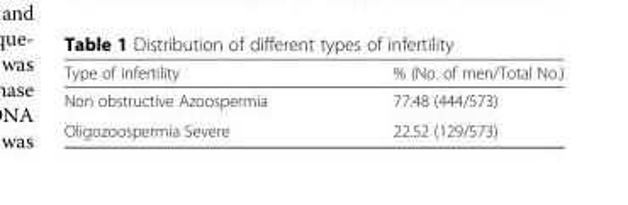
<table><thead><tr><td>Type of infertility</td><td>% (No. of men/Total No.)</td></tr></thead><tbody><tr><td>Non obstructive Azoospermia</td><td>77.48 (444/573)</td></tr><tr><td>Oligozoospermia Severe</td><td>22.52 (129/573)</td></tr></tbody></table>